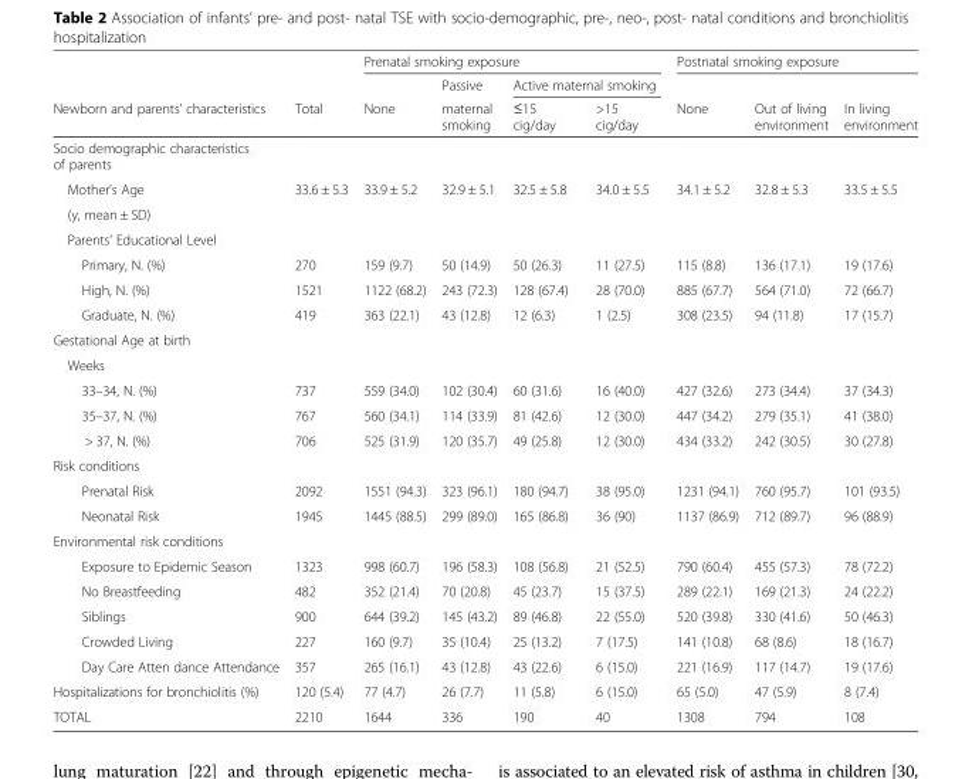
<table><thead><tr><td rowspan="3">Newborn and parents’ characteristics</td><td rowspan="3">Total</td><td colspan="4">Prenatal smoking exposure</td><td colspan="3">Postnatal smoking exposure</td></tr><tr><td rowspan="2">None</td><td rowspan="2">Passive maternal smoking</td><td colspan="2">Active maternal smoking</td><td rowspan="2">None</td><td rowspan="2">Out of living environment</td><td rowspan="2">In living environment</td></tr><tr><td>≤15 cig/day</td><td>&gt;15 cig/day</td></tr></thead><tbody><tr><td colspan="9">Socio demographic characteristics of parents</td></tr><tr><td>Mother’s Age</td><td rowspan="2">33.6 ± 5.3</td><td rowspan="2">33.9 ± 5.2</td><td rowspan="2">32.9 ± 5.1</td><td rowspan="2">32.5 ± 5.8</td><td rowspan="2">34.0 ± 5.5</td><td rowspan="2">34.1 ± 5.2</td><td rowspan="2">32.8 ± 5.3</td><td rowspan="2">33.5 ± 5.5</td></tr><tr><td>(y, mean ± SD)</td></tr><tr><td colspan="9">Parents’ Educational Level</td></tr><tr><td>Primary, N. (%)</td><td>270</td><td>159 (9.7)</td><td>50 (14.9)</td><td>50 (26.3)</td><td>11 (27.5)</td><td>115 (8.8)</td><td>136 (17.1)</td><td>19 (17.6)</td></tr><tr><td>High, N. (%)</td><td>1521</td><td>1122 (68.2)</td><td>243 (72.3)</td><td>128 (67.4)</td><td>28 (70.0)</td><td>885 (67.7)</td><td>564 (71.0)</td><td>72 (66.7)</td></tr><tr><td>Graduate, N. (%)</td><td>419</td><td>363 (22.1)</td><td>43 (12.8)</td><td>12 (6.3)</td><td>1 (2.5)</td><td>308 (23.5)</td><td>94 (11.8)</td><td>17 (15.7)</td></tr><tr><td colspan="9">Gestational Age at birth</td></tr><tr><td colspan="9">Weeks</td></tr><tr><td>33–34, N. (%)</td><td>737</td><td>559 (34.0)</td><td>102 (30.4)</td><td>60 (31.6)</td><td>16 (40.0)</td><td>427 (32.6)</td><td>273 (34.4)</td><td>37 (34.3)</td></tr><tr><td>35–37, N. (%)</td><td>767</td><td>560 (34.1)</td><td>114 (33.9)</td><td>81 (42.6)</td><td>12 (30.0)</td><td>447 (34.2)</td><td>279 (35.1)</td><td>41 (38.0)</td></tr><tr><td>&gt; 37, N. (%)</td><td>706</td><td>525 (31.9)</td><td>120 (35.7)</td><td>49 (25.8)</td><td>12 (30.0)</td><td>434 (33.2)</td><td>242 (30.5)</td><td>30 (27.8)</td></tr><tr><td colspan="9">Risk conditions</td></tr><tr><td>Prenatal Risk</td><td>2092</td><td>1551 (94.3)</td><td>323 (96.1)</td><td>180 (94.7)</td><td>38 (95.0)</td><td>1231 (94.1)</td><td>760 (95.7)</td><td>101 (93.5)</td></tr><tr><td>Neonatal Risk</td><td>1945</td><td>1445 (88.5)</td><td>299 (89.0)</td><td>165 (86.8)</td><td>36 (90)</td><td>1137 (86.9)</td><td>712 (89.7)</td><td>96 (88.9)</td></tr><tr><td colspan="9">Environmental risk conditions</td></tr><tr><td>Exposure to Epidemic Season</td><td>1323</td><td>998 (60.7)</td><td>196 (58.3)</td><td>108 (56.8)</td><td>21 (52.5)</td><td>790 (60.4)</td><td>455 (57.3)</td><td>78 (72.2)</td></tr><tr><td>No Breastfeeding</td><td>482</td><td>352 (21.4)</td><td>70 (20.8)</td><td>45 (23.7)</td><td>15 (37.5)</td><td>289 (22.1)</td><td>169 (21.3)</td><td>24 (22.2)</td></tr><tr><td>Siblings</td><td>900</td><td>644 (39.2)</td><td>145 (43.2)</td><td>89 (46.8)</td><td>22 (55.0)</td><td>520 (39.8)</td><td>330 (41.6)</td><td>50 (46.3)</td></tr><tr><td>Crowded Living</td><td>227</td><td>160 (9.7)</td><td>35 (10.4)</td><td>25 (13.2)</td><td>7 (17.5)</td><td>141 (10.8)</td><td>68 (8.6)</td><td>18 (16.7)</td></tr><tr><td>Day Care Atten dance Attendance</td><td>357</td><td>265 (16.1)</td><td>43 (12.8)</td><td>43 (22.6)</td><td>6 (15.0)</td><td>221 (16.9)</td><td>117 (14.7)</td><td>19 (17.6)</td></tr><tr><td>Hospitalizations for bronchiolitis (%)</td><td>120 (5.4)</td><td>77 (4.7)</td><td>26 (7.7)</td><td>11 (5.8)</td><td>6 (15.0)</td><td>65 (5.0)</td><td>47 (5.9)</td><td>8 (7.4)</td></tr><tr><td>TOTAL</td><td>2210</td><td>1644</td><td>336</td><td>190</td><td>40</td><td>1308</td><td>794</td><td>108</td></tr></tbody></table>